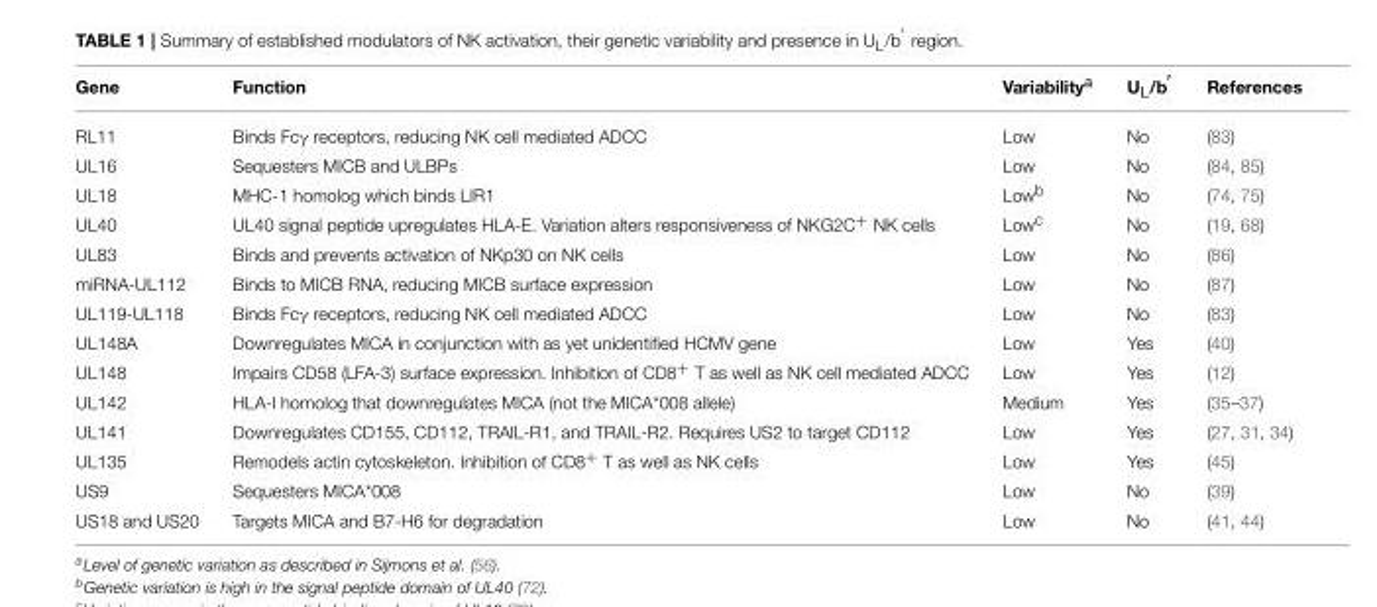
<table><thead><tr><td>Gene</td><td>Function</td><td>Variability<sup>a</sup></td><td>U<sub>L</sub>/b <sup>′</sup></td><td>References</td></tr></thead><tbody><tr><td>RL11</td><td>Binds Fcγ receptors, reducing NK cell mediated ADCC</td><td>Low</td><td>No</td><td>(83)</td></tr><tr><td>UL16</td><td>Sequesters MICB and ULBPs</td><td>Low</td><td>No</td><td>(84, 85)</td></tr><tr><td>UL18</td><td>MHC-1 homolog which binds LIR1</td><td>Low<sup>b</sup></td><td>No</td><td>(74, 75)</td></tr><tr><td>UL40</td><td>UL40 signal peptide upregulates HLA-E. Variation alters responsiveness of NKG2C<sup>+</sup> NK cells</td><td>Low<sup>c</sup></td><td>No</td><td>(19, 68)</td></tr><tr><td>UL83</td><td>Binds and prevents activation of NKp30 on NK cells</td><td>Low</td><td>No</td><td>(86)</td></tr><tr><td>miRNA-UL112</td><td>Binds to MICB RNA, reducing MICB surface expression</td><td>Low</td><td>No</td><td>(87)</td></tr><tr><td>UL119-UL118</td><td>Binds Fcγ receptors, reducing NK cell mediated ADCC</td><td>Low</td><td>No</td><td>(83)</td></tr><tr><td>UL148A</td><td>Downregulates MICA in conjunction with as yet unidentified HCMV gene</td><td>Low</td><td>Yes</td><td>(40)</td></tr><tr><td>UL148</td><td>Impairs CD58 (LFA-3) surface expression. Inhibition of CD8<sup>+</sup> T as well as NK cell mediated ADCC</td><td>Low</td><td>Yes</td><td>(12)</td></tr><tr><td>UL142</td><td>HLA-I homolog that downregulates MICA (not the MICA*008 allele)</td><td>Medium</td><td>Yes</td><td>(35–37)</td></tr><tr><td>UL141</td><td>Downregulates CD155, CD112, TRAIL-R1, and TRAIL-R2. Requires US2 to target CD112</td><td>Low</td><td>Yes</td><td>(27, 31, 34)</td></tr><tr><td>UL135</td><td>Remodels actin cytoskeleton. Inhibition of CD8<sup>+</sup> T as well as NK cells</td><td>Low</td><td>Yes</td><td>(45)</td></tr><tr><td>US9</td><td>Sequesters MICA*008</td><td>Low</td><td>No</td><td>(39)</td></tr><tr><td>US18 and US20</td><td>Targets MICA and B7-H6 for degradation</td><td>Low</td><td>No</td><td>(41, 44)</td></tr></tbody></table>